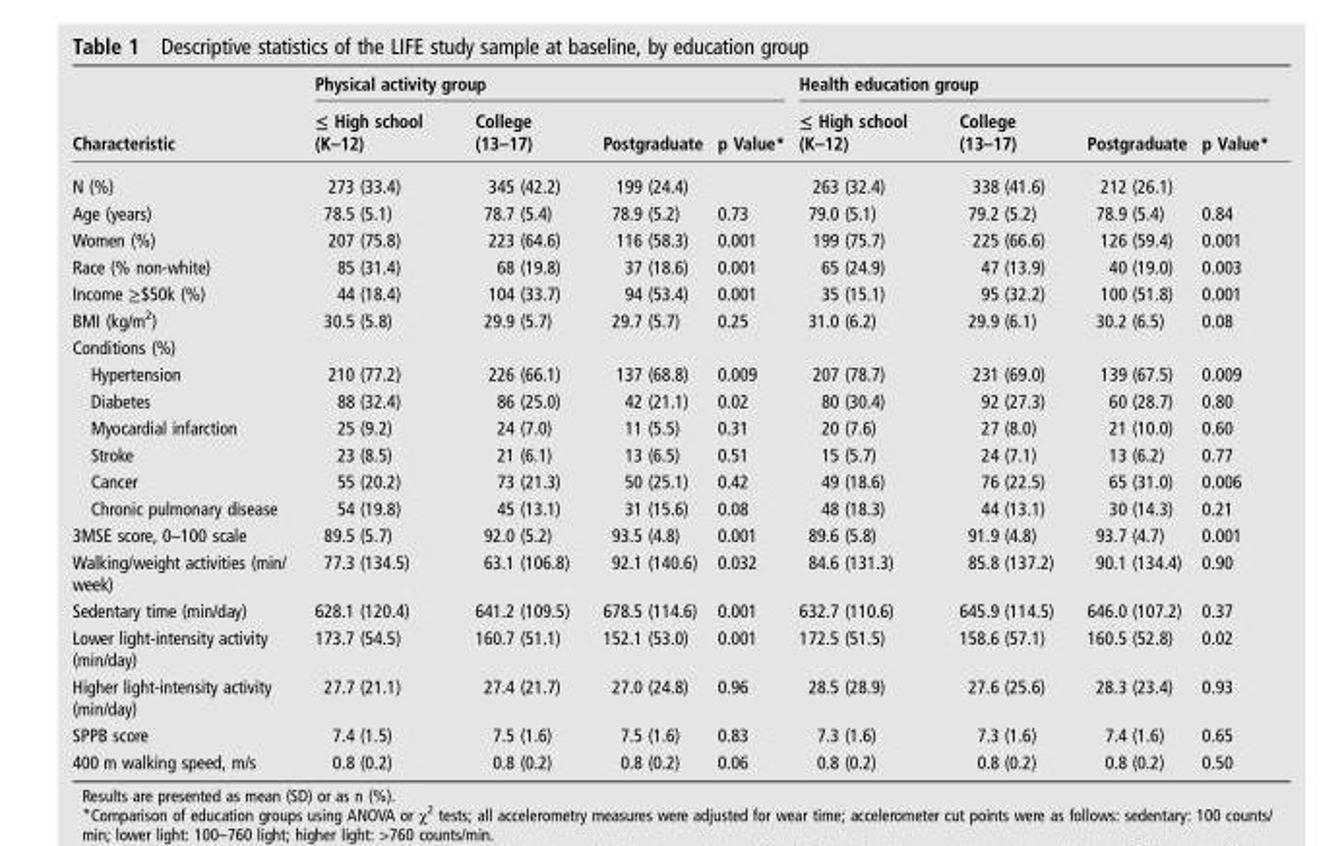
<table><thead><tr><td rowspan="2">Characteristic</td><td colspan="4">Physical activity group</td><td colspan="4">Health education group</td></tr><tr><td>≤ High school (K–12)</td><td>College (13–17)</td><td>Postgraduate</td><td>p Value*</td><td>≤ High school (K–12)</td><td>College (13–17)</td><td>Postgraduate</td><td>p Value*</td></tr></thead><tbody><tr><td>N (%)</td><td>273 (33.4)</td><td>345 (42.2)</td><td>199 (24.4)</td><td></td><td>263 (32.4)</td><td>338 (41.6)</td><td>212 (26.1)</td><td></td></tr><tr><td>Age (years)</td><td>78.5 (5.1)</td><td>78.7 (5.4)</td><td>78.9 (5.2)</td><td>0.73</td><td>79.0 (5.1)</td><td>79.2 (5.2)</td><td>78.9 (5.4)</td><td>0.84</td></tr><tr><td>Women (%)</td><td>207 (75.8)</td><td>223 (64.6)</td><td>116 (58.3)</td><td>0.001</td><td>199 (75.7)</td><td>225 (66.6)</td><td>126 (59.4)</td><td>0.001</td></tr><tr><td>Race (% non-white)</td><td>85 (31.4)</td><td>68 (19.8)</td><td>37 (18.6)</td><td>0.001</td><td>65 (24.9)</td><td>47 (13.9)</td><td>40 (19.0)</td><td>0.003</td></tr><tr><td>Income ≥$50k (%)</td><td>44 (18.4)</td><td>104 (33.7)</td><td>94 (53.4)</td><td>0.001</td><td>35 (15.1)</td><td>95 (32.2)</td><td>100 (51.8)</td><td>0.001</td></tr><tr><td>BMI (kg/m<sup>2</sup>)</td><td>30.5 (5.8)</td><td>29.9 (5.7)</td><td>29.7 (5.7)</td><td>0.25</td><td>31.0 (6.2)</td><td>29.9 (6.1)</td><td>30.2 (6.5)</td><td>0.08</td></tr><tr><td colspan="9">Conditions (%)</td></tr><tr><td>Hypertension</td><td>210 (77.2)</td><td>226 (66.1)</td><td>137 (68.8)</td><td>0.009</td><td>207 (78.7)</td><td>231 (69.0)</td><td>139 (67.5)</td><td>0.009</td></tr><tr><td>Diabetes</td><td>88 (32.4)</td><td>86 (25.0)</td><td>42 (21.1)</td><td>0.02</td><td>80 (30.4)</td><td>92 (27.3)</td><td>60 (28.7)</td><td>0.80</td></tr><tr><td>Myocardial infarction</td><td>25 (9.2)</td><td>24 (7.0)</td><td>11 (5.5)</td><td>0.31</td><td>20 (7.6)</td><td>27 (8.0)</td><td>21 (10.0)</td><td>0.60</td></tr><tr><td>Stroke</td><td>23 (8.5)</td><td>21 (6.1)</td><td>13 (6.5)</td><td>0.51</td><td>15 (5.7)</td><td>24 (7.1)</td><td>13 (6.2)</td><td>0.77</td></tr><tr><td>Cancer</td><td>55 (20.2)</td><td>73 (21.3)</td><td>50 (25.1)</td><td>0.42</td><td>49 (18.6)</td><td>76 (22.5)</td><td>65 (31.0)</td><td>0.006</td></tr><tr><td>Chronic pulmonary disease</td><td>54 (19.8)</td><td>45 (13.1)</td><td>31 (15.6)</td><td>0.08</td><td>48 (18.3)</td><td>44 (13.1)</td><td>30 (14.3)</td><td>0.21</td></tr><tr><td>3MSE score, 0–100 scale</td><td>89.5 (5.7)</td><td>92.0 (5.2)</td><td>93.5 (4.8)</td><td>0.001</td><td>89.6 (5.8)</td><td>91.9 (4.8)</td><td>93.7 (4.7)</td><td>0.001</td></tr><tr><td>Walking/weight activities (min/ week)</td><td>77.3 (134.5)</td><td>63.1 (106.8)</td><td>92.1 (140.6)</td><td>0.032</td><td>84.6 (131.3)</td><td>85.8 (137.2)</td><td>90.1 (134.4)</td><td>0.90</td></tr><tr><td>Sedentary time (min/day)</td><td>628.1 (120.4)</td><td>641.2 (109.5)</td><td>678.5 (114.6)</td><td>0.001</td><td>632.7 (110.6)</td><td>645.9 (114.5)</td><td>646.0 (107.2)</td><td>0.37</td></tr><tr><td>Lower light-intensity activity (min/day)</td><td>173.7 (54.5)</td><td>160.7 (51.1)</td><td>152.1 (53.0)</td><td>0.001</td><td>172.5 (51.5)</td><td>158.6 (57.1)</td><td>160.5 (52.8)</td><td>0.02</td></tr><tr><td>Higher light-intensity activity (min/day)</td><td>27.7 (21.1)</td><td>27.4 (21.7)</td><td>27.0 (24.8)</td><td>0.96</td><td>28.5 (28.9)</td><td>27.6 (25.6)</td><td>28.3 (23.4)</td><td>0.93</td></tr><tr><td>SPPB score</td><td>7.4 (1.5)</td><td>7.5 (1.6)</td><td>7.5 (1.6)</td><td>0.83</td><td>7.3 (1.6)</td><td>7.3 (1.6)</td><td>7.4 (1.6)</td><td>0.65</td></tr><tr><td>400 m walking speed, m/s</td><td>0.8 (0.2)</td><td>0.8 (0.2)</td><td>0.8 (0.2)</td><td>0.06</td><td>0.8 (0.2)</td><td>0.8 (0.2)</td><td>0.8 (0.2)</td><td>0.50</td></tr></tbody></table>